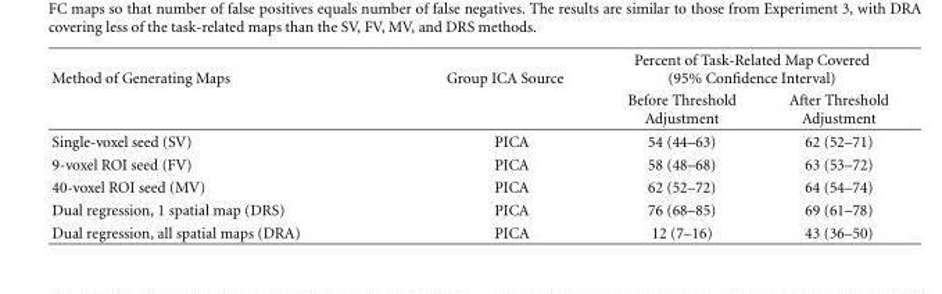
<table><thead><tr><td rowspan="2">Method of Generating Maps</td><td rowspan="2">Group ICA Source</td><td colspan="2">Percent of Task-Related Map Covered (95% Confidence Interval)</td></tr><tr><td>Before Threshold Adjustment</td><td>After Threshold Adjustment</td></tr></thead><tbody><tr><td>Single-voxel seed (SV)</td><td>PICA</td><td>54 (44–63)</td><td>62 (52–71)</td></tr><tr><td>9-voxel ROI seed (FV)</td><td>PICA</td><td>58 (48–68)</td><td>63 (53–72)</td></tr><tr><td>40-voxel ROI seed (MV)</td><td>PICA</td><td>62 (52–72)</td><td>64 (54–74)</td></tr><tr><td>Dual regression, 1 spatial map (DRS)</td><td>PICA</td><td>76 (68–85)</td><td>69 (61–78)</td></tr><tr><td>Dual regression, all spatial maps (DRA)</td><td>PICA</td><td>12 (7–16)</td><td>43 (36–50)</td></tr></tbody></table>